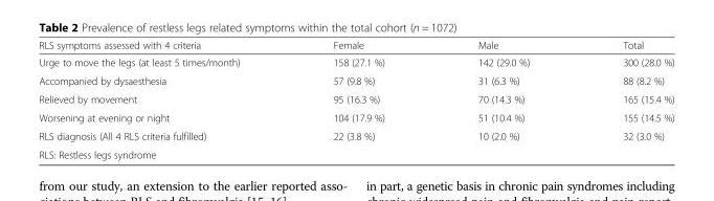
<table><thead><tr><td>RLS symptoms assessed with 4 criteria</td><td>Female</td><td>Male</td><td>Total</td></tr></thead><tbody><tr><td>Urge to move the legs (at least 5 times/month)</td><td>158 (27.1 %)</td><td>142 (29.0 %)</td><td>300 (28.0 %)</td></tr><tr><td>Accompanied by dysaesthesia</td><td>57 (9.8 %)</td><td>31 (6.3 %)</td><td>88 (8.2 %)</td></tr><tr><td>Relieved by movement</td><td>95 (16.3 %)</td><td>70 (14.3 %)</td><td>165 (15.4 %)</td></tr><tr><td>Worsening at evening or night</td><td>104 (17.9 %)</td><td>51 (10.4 %)</td><td>155 (14.5 %)</td></tr><tr><td>RLS diagnosis (All 4 RLS criteria fulfilled)</td><td>22 (3.8 %)</td><td>10 (2.0 %)</td><td>32 (3.0 %)</td></tr><tr><td>RLS: Restless legs syndrome</td><td></td><td></td><td></td></tr></tbody></table>